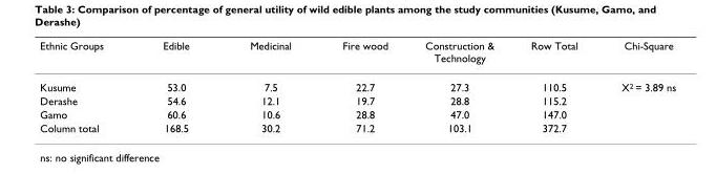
<table><thead><tr><td>Ethnic Groups</td><td>Edible</td><td>Medicinal</td><td>Fire wood</td><td>Construction &amp; Technology</td><td>Row Total</td><td>Chi-Square</td></tr></thead><tbody><tr><td>Kusume</td><td>53.0</td><td>7.5</td><td>22.7</td><td>27.3</td><td>110.5</td><td>X<sup>2</sup> = 3.89 ns</td></tr><tr><td>Derashe</td><td>54.6</td><td>12.1</td><td>19.7</td><td>28.8</td><td>115.2</td><td></td></tr><tr><td>Gamo</td><td>60.6</td><td>10.6</td><td>28.8</td><td>47.0</td><td>147.0</td><td></td></tr><tr><td>Column total</td><td>168.5</td><td>30.2</td><td>71.2</td><td>103.1</td><td>372.7</td><td></td></tr></tbody></table>